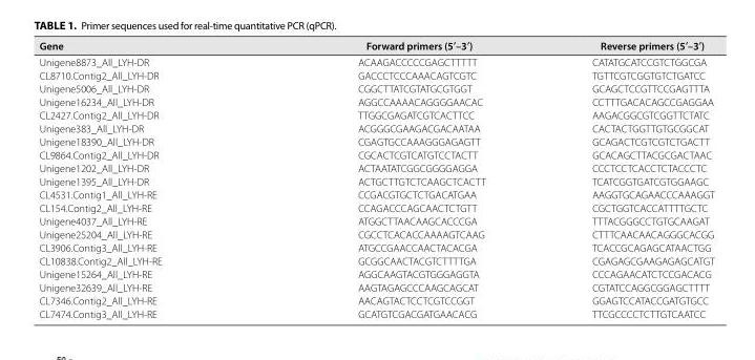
<table><thead><tr><td>Gene</td><td>Forward primers (5′–3′)</td><td>Reverse primers (5′–3′)</td></tr></thead><tbody><tr><td>Unigene8873_All_LYH- DR</td><td>ACAAGACCCCCGAGCTTTTT</td><td>CATATGCATCCGTCTGGCGA</td></tr><tr><td>CL8710.Contig2_All_LYH- DR</td><td>GACCCTCCCAAACAGTCGTC</td><td>TGTTCGTCGGTGTCTGATCC</td></tr><tr><td>Unigene5006_All_LYH- DR</td><td>CGGCTTATCGTATGCGTGGT</td><td>GCAGCTCCGTTCCGAGTTTA</td></tr><tr><td>Unigene16234_All_LYH- DR</td><td>AGGCCAAAACAGGGGAACAC</td><td>CCTTTGACACAGCCGAGGAA</td></tr><tr><td>CL2427.Contig2_All_LYH- DR</td><td>TTGGCGAGATCGTCACTTCC</td><td>AAGACGGCGTCGGTTCTATC</td></tr><tr><td>Unigene383_All_LYH- DR</td><td>ACGGGCGAAGACGACAATAA</td><td>CACTACTGGTTGTGCGGCAT</td></tr><tr><td>Unigene18390_All_LYH- DR</td><td>CGAGTGCCAAAGGGAGAGTT</td><td>GCAGACTCGTCGTCTGACTT</td></tr><tr><td>CL9864.Contig2_All_LYH- DR</td><td>CGCACTCGTCATGTCCTACTT</td><td>GCACAGCTTACGCGACTAAC</td></tr><tr><td>Unigene1202_All_LYH- DR</td><td>ACTAATATCGGCGGGGAGGA</td><td>CCCTCCTCACCTCTACCCTC</td></tr><tr><td>Unigene1395_All_LYH- DR</td><td>ACTGCTTGTCTCAAGCTCACTT</td><td>TCATCGGTGATCGTGGAAGC</td></tr><tr><td>CL4531.Contig1_All_LYH- RE</td><td>CCGACGTGCTCTGACATGAA</td><td>AAGGTGCAGAACCCAAAGGT</td></tr><tr><td>CL154.Contig2_All_LYH- RE</td><td>CCAGACCCAGCAACTCTGTT</td><td>CGCTGGTCACCATTTTGCTC</td></tr><tr><td>Unigene4037_All_LYH- RE</td><td>ATGGCTTAACAAGCACCCGA</td><td>TTTACGGGCCTGTGCAAGAT</td></tr><tr><td>Unigene25204_All_LYH- RE</td><td>CGCCTCACACCAAAAGTCAAG</td><td>CTTTCAACAACAGGGCACGG</td></tr><tr><td>CL3906.Contig3_All_LYH- RE</td><td>ATGCCGAACCAACTACACGA</td><td>TCACCGCAGAGCATAACTGG</td></tr><tr><td>CL10838.Contig2_All_LYH- RE</td><td>GCGGCAACTACGTCTTTTGA</td><td>CGAGAGCGAAGAGAGCATGT</td></tr><tr><td>Unigene15264_All_LYH- RE</td><td>AGGCAAGTACGTGGGAGGTA</td><td>CCCAGAACATCTCCGACACG</td></tr><tr><td>Unigene32639_All_LYH- RE</td><td>AAGTAGAGCCCAAGCAGCAT</td><td>CGTATCCAGGCGGAGCTTTT</td></tr><tr><td>CL7346.Contig2_All_LYH- RE</td><td>AACAGTACTCCTCGTCCGGT</td><td>GGAGTCCATACCGATGTGCC</td></tr><tr><td>CL7474.Contig3_All_LYH- RE</td><td>GCATGTCGACGATGAACACG</td><td>TTCGCCCCTCTTGTCAATCC</td></tr></tbody></table>